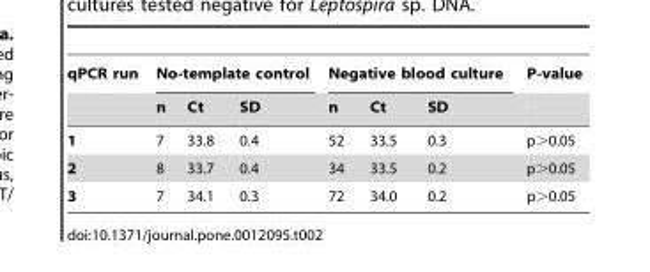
<table><thead><tr><td rowspan="2">qPCR run</td><td colspan="3">No-template control</td><td colspan="3">Negative blood culture</td><td rowspan="2">P-value</td></tr><tr><td>n</td><td>Ct</td><td>SD</td><td>n</td><td>Ct</td><td>SD</td></tr></thead><tbody><tr><td>1</td><td>7</td><td>33.8</td><td>0.4</td><td>52</td><td>33.5</td><td>0.3</td><td>p&gt;0.05</td></tr><tr><td>2</td><td>8</td><td>33.7</td><td>0.4</td><td>34</td><td>33.5</td><td>0.2</td><td>p&gt;0.05</td></tr><tr><td>3</td><td>7</td><td>34.1</td><td>0.3</td><td>72</td><td>34.0</td><td>0.2</td><td>p&gt;0.05</td></tr></tbody></table>